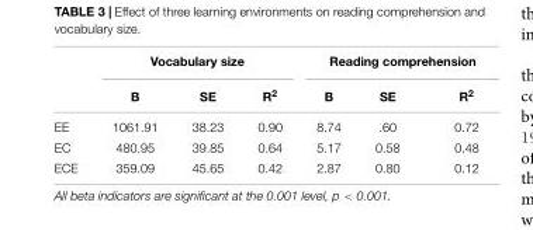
<table><thead><tr><td rowspan="2"></td><td colspan="3">Vocabulary size</td><td colspan="3">Reading comprehension</td></tr><tr><td>B</td><td>SE</td><td>R<sup>2</sup></td><td>B</td><td>SE</td><td>R<sup>2</sup></td></tr></thead><tbody><tr><td>EE</td><td>1061.91</td><td>38.23</td><td>0.90</td><td>8.74</td><td>.60</td><td>0.72</td></tr><tr><td>EC</td><td>480.95</td><td>39.85</td><td>0.64</td><td>5.17</td><td>0.58</td><td>0.48</td></tr><tr><td>ECE</td><td>359.09</td><td>45.65</td><td>0.42</td><td>2.87</td><td>0.80</td><td>0.12</td></tr></tbody></table>